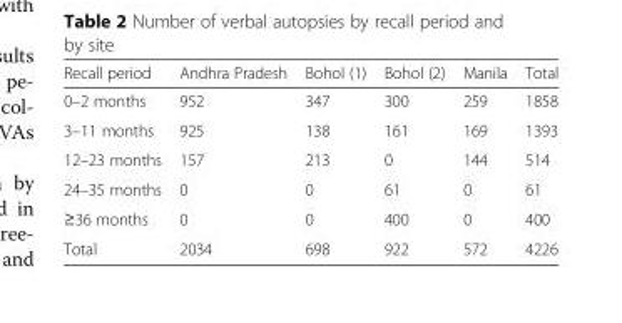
<table><thead><tr><td>Recall period</td><td>Andhra Pradesh</td><td>Bohol (1)</td><td>Bohol (2)</td><td>Manila</td><td>Total</td></tr></thead><tbody><tr><td>0–2 months</td><td>952</td><td>347</td><td>300</td><td>259</td><td>1858</td></tr><tr><td>3–11 months</td><td>925</td><td>138</td><td>161</td><td>169</td><td>1393</td></tr><tr><td>12–23 months</td><td>157</td><td>213</td><td>0</td><td>144</td><td>514</td></tr><tr><td>24–35 months</td><td>0</td><td>0</td><td>61</td><td>0</td><td>61</td></tr><tr><td>≥36 months</td><td>0</td><td>0</td><td>400</td><td>0</td><td>400</td></tr><tr><td>Total</td><td>2034</td><td>698</td><td>922</td><td>572</td><td>4226</td></tr></tbody></table>